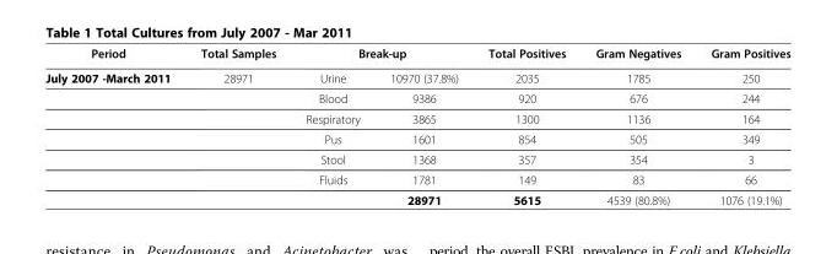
<table><thead><tr><td rowspan="2">Period July 2007 -March 2011</td><td rowspan="2">Total Samples 28971</td><td colspan="2">Break-up</td><td rowspan="2">Total Positives 2035</td><td rowspan="2">Gram Negatives 1785</td><td rowspan="2">Gram Positives 250</td></tr><tr><td>Urine</td><td>10970 (37.8%)</td></tr></thead><tbody><tr><td></td><td></td><td>Blood</td><td>9386</td><td>920</td><td>676</td><td>244</td></tr><tr><td></td><td></td><td>Respiratory</td><td>3865</td><td>1300</td><td>1136</td><td>164</td></tr><tr><td></td><td></td><td>Pus</td><td>1601</td><td>854</td><td>505</td><td>349</td></tr><tr><td></td><td></td><td>Stool</td><td>1368</td><td>357</td><td>354</td><td>3</td></tr><tr><td></td><td></td><td>Fluids</td><td>1781</td><td>149</td><td>83</td><td>66</td></tr><tr><td></td><td></td><td></td><td>28971</td><td>5615</td><td>4539 (80.8%)</td><td>1076 (19.1%)</td></tr></tbody></table>